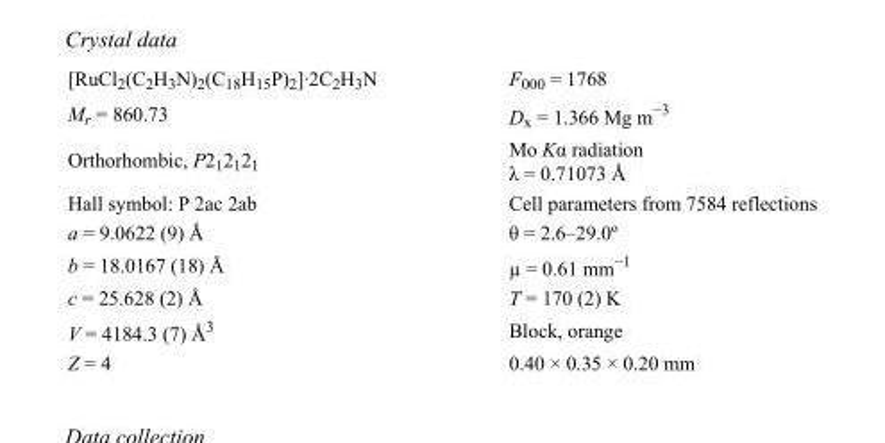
<table><tbody><tr><td>[RuCl<sub>2</sub>(C<sub>2</sub>H<sub>3</sub>N)<sub>2</sub>(C<sub>18</sub>H<sub>15</sub>P)<sub>2</sub>]·2C<sub>2</sub>H<sub>3</sub>N</td><td>F<sub>000</sub> = 1768</td></tr><tr><td>M<sub>r</sub> = 860.73</td><td>D<sub>x</sub> = 1.366 Mg m<sup>−3</sup></td></tr><tr><td>Orthorhombic, P2<sub>1</sub>2<sub>1</sub>2<sub>1</sub></td><td>Mo Kα radiation λ = 0.71073 Å</td></tr><tr><td>Hall symbol: P 2ac 2ab</td><td>Cell parameters from 7584 reflections</td></tr><tr><td>a = 9.0622 (9) Å</td><td>θ = 2.6–29.0º</td></tr><tr><td>b = 18.0167 (18) Å</td><td>µ = 0.61 mm<sup>−1</sup></td></tr><tr><td>c = 25.628 (2) Å</td><td>T = 170 (2) K</td></tr><tr><td>V = 4184.3 (7) Å<sup>3</sup></td><td>Block, orange</td></tr><tr><td>Z = 4</td><td>0.40 × 0.35 × 0.20 mm</td></tr></tbody></table>